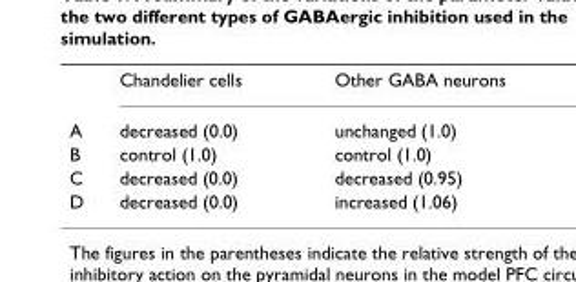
<table><thead><tr><td></td><td>Chandelier cells</td><td>Other GABA neurons</td></tr></thead><tbody><tr><td>A</td><td>decreased (0.0)</td><td>unchanged (1.0)</td></tr><tr><td>B</td><td>control (1.0)</td><td>control (1.0)</td></tr><tr><td>C</td><td>decreased (0.0)</td><td>decreased (0.95)</td></tr><tr><td>D</td><td>decreased (0.0)</td><td>increased (1.06)</td></tr></tbody></table>